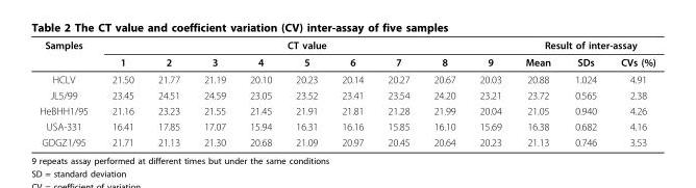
<table><thead><tr><td rowspan="2">Samples</td><td colspan="9">CT value</td><td colspan="3">Result of inter-assay</td></tr><tr><td>1</td><td>2</td><td>3</td><td>4</td><td>5</td><td>6</td><td>7</td><td>8</td><td>9</td><td>Mean</td><td>SDs</td><td>CVs (%)</td></tr></thead><tbody><tr><td>HCLV</td><td>21.50</td><td>21.77</td><td>21.19</td><td>20.10</td><td>20.23</td><td>20.14</td><td>20.27</td><td>20.67</td><td>20.03</td><td>20.88</td><td>1.024</td><td>4.91</td></tr><tr><td>JL5/99</td><td>23.45</td><td>24.51</td><td>24.59</td><td>23.05</td><td>23.52</td><td>23.41</td><td>23.54</td><td>24.20</td><td>23.21</td><td>23.72</td><td>0.565</td><td>2.38</td></tr><tr><td>HeBHH1/95</td><td>21.16</td><td>23.23</td><td>21.55</td><td>21.45</td><td>21.91</td><td>21.81</td><td>21.28</td><td>21.99</td><td>20.04</td><td>21.05</td><td>0.940</td><td>4.26</td></tr><tr><td>USA-331</td><td>16.41</td><td>17.85</td><td>17.07</td><td>15.94</td><td>16.31</td><td>16.16</td><td>15.85</td><td>16.10</td><td>15.69</td><td>16.38</td><td>0.682</td><td>4.16</td></tr><tr><td>GDGZ1/95</td><td>21.71</td><td>21.13</td><td>21.30</td><td>20.68</td><td>21.09</td><td>20.97</td><td>20.45</td><td>20.64</td><td>20.23</td><td>21.13</td><td>0.746</td><td>3.53</td></tr></tbody></table>